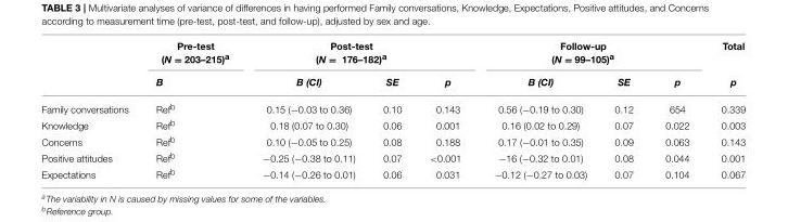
<table><thead><tr><td rowspan="2"></td><td rowspan="2">Pre-test (N = 203–215)<sup>a</sup> B</td><td colspan="3">Post-test (N = 176–182)<sup>a</sup></td><td colspan="3">Follow-up (N = 99–105)<sup>a</sup></td><td rowspan="2">Total p</td></tr><tr><td>B (CI)</td><td>SE</td><td>p</td><td>B (CI)</td><td>SE</td><td>p</td></tr></thead><tbody><tr><td>Family conversations</td><td>Ref<sup>b</sup></td><td>0.15 (−0.03 to 0.36)</td><td>0.10</td><td>0.143</td><td>0.56 (−0.19 to 0.30)</td><td>0.12</td><td>654</td><td>0.339</td></tr><tr><td>Knowledge</td><td>Ref<sup>b</sup></td><td>0.18 (0.07 to 0.30)</td><td>0.06</td><td>0.001</td><td>0.16 (0.02 to 0.29)</td><td>0.07</td><td>0.022</td><td>0.003</td></tr><tr><td>Concerns</td><td>Ref<sup>b</sup></td><td>0.10 (−0.05 to 0.25)</td><td>0.08</td><td>0.188</td><td>0.17 (−0.01 to 0.35)</td><td>0.09</td><td>0.063</td><td>0.143</td></tr><tr><td>Positive attitudes</td><td>Ref<sup>b</sup></td><td>−0.25 (−0.38 to 0.11)</td><td>0.07</td><td>&lt;0.001</td><td>−16 (−0.32 to 0.01)</td><td>0.08</td><td>0.044</td><td>0.001</td></tr><tr><td>Expectations</td><td>Ref<sup>b</sup></td><td>−0.14 (−0.26 to 0.01)</td><td>0.06</td><td>0.031</td><td>−0.12 (−0.27 to 0.03)</td><td>0.07</td><td>0.104</td><td>0.067</td></tr></tbody></table>